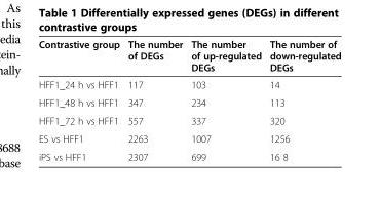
<table><thead><tr><td>Contrastive group</td><td>The number of DEGs</td><td>The number of up-regulated DEGs</td><td>The number of down-regulated DEGs</td></tr></thead><tbody><tr><td>HFF1_24 h vs HFF1</td><td>117</td><td>103</td><td>14</td></tr><tr><td>HFF1_48 h vs HFF1</td><td>347</td><td>234</td><td>113</td></tr><tr><td>HFF1_72 h vs HFF1</td><td>557</td><td>337</td><td>320</td></tr><tr><td>ES vs HFF1</td><td>2263</td><td>1007</td><td>1256</td></tr><tr><td>iPS vs HFF1</td><td>2307</td><td>699</td><td>16 8</td></tr></tbody></table>